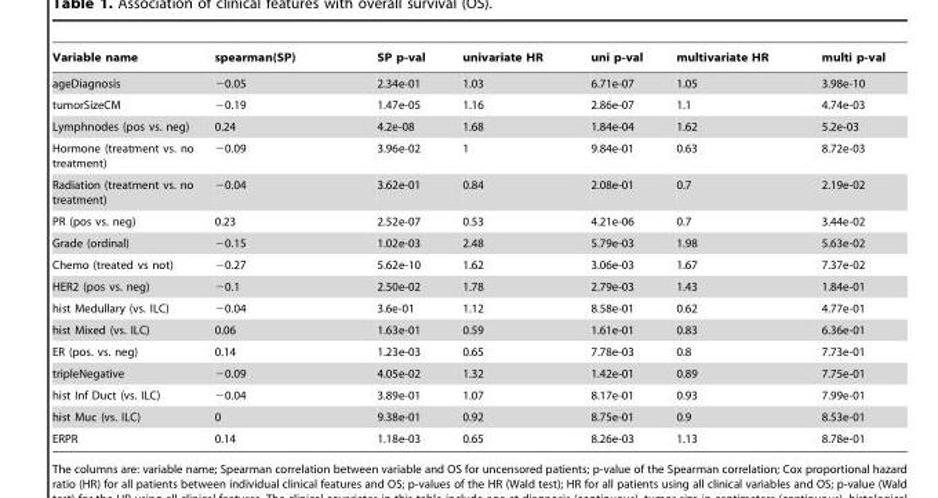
<table><thead><tr><td>Variable name</td><td>spearman(SP)</td><td>SP p-val</td><td>univariate HR</td><td>uni p-val</td><td>multivariate HR</td><td>multi p-val</td></tr></thead><tbody><tr><td>ageDiagnosis</td><td>−0.05</td><td>2.34e-01</td><td>1.03</td><td>6.71e-07</td><td>1.05</td><td>3.98e-10</td></tr><tr><td>tumorSizeCM</td><td>−0.19</td><td>1.47e-05</td><td>1.16</td><td>2.86e-07</td><td>1.1</td><td>4.74e-03</td></tr><tr><td>Lymphnodes (pos vs. neg)</td><td>0.24</td><td>4.2e-08</td><td>1.68</td><td>1.84e-04</td><td>1.62</td><td>5.2e-03</td></tr><tr><td>Hormone (treatment vs. no treatment)</td><td>−0.09</td><td>3.96e-02</td><td>1</td><td>9.84e-01</td><td>0.63</td><td>8.72e-03</td></tr><tr><td>Radiation (treatment vs. no treatment)</td><td>−0.04</td><td>3.62e-01</td><td>0.84</td><td>2.08e-01</td><td>0.7</td><td>2.19e-02</td></tr><tr><td>PR (pos vs. neg)</td><td>0.23</td><td>2.52e-07</td><td>0.53</td><td>4.21e-06</td><td>0.7</td><td>3.44e-02</td></tr><tr><td>Grade (ordinal)</td><td>−0.15</td><td>1.02e-03</td><td>2.48</td><td>5.79e-03</td><td>1.98</td><td>5.63e-02</td></tr><tr><td>Chemo (treated vs not)</td><td>−0.27</td><td>5.62e-10</td><td>1.62</td><td>3.06e-03</td><td>1.67</td><td>7.37e-02</td></tr><tr><td>HER2 (pos vs. neg)</td><td>−0.1</td><td>2.50e-02</td><td>1.78</td><td>2.79e-03</td><td>1.43</td><td>1.84e-01</td></tr><tr><td>hist Medullary (vs. ILC)</td><td>−0.04</td><td>3.6e-01</td><td>1.12</td><td>8.58e-01</td><td>0.62</td><td>4.77e-01</td></tr><tr><td>hist Mixed (vs. ILC)</td><td>0.06</td><td>1.63e-01</td><td>0.59</td><td>1.61e-01</td><td>0.83</td><td>6.36e-01</td></tr><tr><td>ER (pos. vs. neg)</td><td>0.14</td><td>1.23e-03</td><td>0.65</td><td>7.78e-03</td><td>0.8</td><td>7.73e-01</td></tr><tr><td>tripleNegative</td><td>−0.09</td><td>4.05e-02</td><td>1.32</td><td>1.42e-01</td><td>0.89</td><td>7.75e-01</td></tr><tr><td>hist Inf Duct (vs. ILC)</td><td>−0.04</td><td>3.89e-01</td><td>1.07</td><td>8.17e-01</td><td>0.93</td><td>7.99e-01</td></tr><tr><td>hist Muc (vs. ILC)</td><td>0</td><td>9.38e-01</td><td>0.92</td><td>8.75e-01</td><td>0.9</td><td>8.53e-01</td></tr><tr><td>ERPR</td><td>0.14</td><td>1.18e-03</td><td>0.65</td><td>8.26e-03</td><td>1.13</td><td>8.78e-01</td></tr></tbody></table>